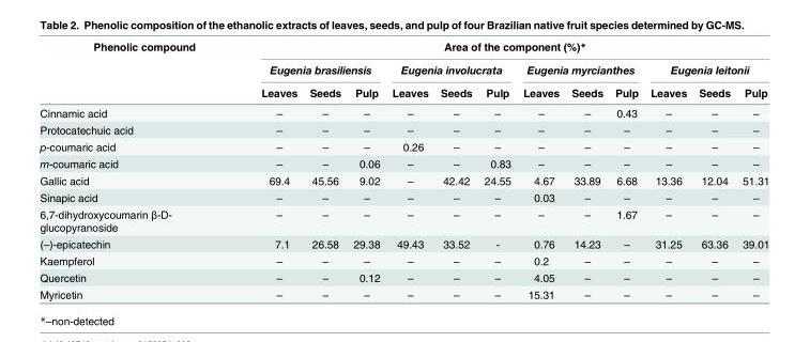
<table><thead><tr><td rowspan="3">Phenolic compound</td><td colspan="12">Area of the component (%)*</td></tr><tr><td colspan="3">Eugenia brasiliensis</td><td colspan="3">Eugenia involucrata</td><td colspan="3">Eugenia myrcianthes</td><td colspan="3">Eugenia leitonii</td></tr><tr><td>Leaves</td><td>Seeds</td><td>Pulp</td><td>Leaves</td><td>Seeds</td><td>Pulp</td><td>Leaves</td><td>Seeds</td><td>Pulp</td><td>Leaves</td><td>Seeds</td><td>Pulp</td></tr></thead><tbody><tr><td>Cinnamic acid</td><td>–</td><td>–</td><td>–</td><td>–</td><td>–</td><td>–</td><td>–</td><td>–</td><td>0.43</td><td>–</td><td>–</td><td>–</td></tr><tr><td>Protocatechuic acid</td><td>–</td><td>–</td><td>–</td><td>–</td><td>–</td><td>–</td><td>–</td><td>–</td><td>–</td><td>–</td><td>–</td><td>–</td></tr><tr><td>p-coumaric acid</td><td>–</td><td>–</td><td>–</td><td>0.26</td><td>–</td><td>–</td><td>–</td><td>–</td><td>–</td><td>–</td><td>–</td><td>–</td></tr><tr><td>m-coumaric acid</td><td>–</td><td>–</td><td>0.06</td><td>–</td><td>–</td><td>0.83</td><td>–</td><td>–</td><td>–</td><td>–</td><td>–</td><td>–</td></tr><tr><td>Gallic acid</td><td>69.4</td><td>45.56</td><td>9.02</td><td>–</td><td>42.42</td><td>24.55</td><td>4.67</td><td>33.89</td><td>6.68</td><td>13.36</td><td>12.04</td><td>51.31</td></tr><tr><td>Sinapic acid</td><td>–</td><td>–</td><td>–</td><td>–</td><td>–</td><td>–</td><td>0.03</td><td>–</td><td>–</td><td>–</td><td>–</td><td>–</td></tr><tr><td>6,7-dihydroxycoumarin β-D- glucopyranoside</td><td>–</td><td>–</td><td>–</td><td>–</td><td>–</td><td>–</td><td>–</td><td>–</td><td>1.67</td><td>–</td><td>–</td><td>–</td></tr><tr><td>(–)-epicatechin</td><td>7.1</td><td>26.58</td><td>29.38</td><td>49.43</td><td>33.52</td><td>-</td><td>0.76</td><td>14.23</td><td>–</td><td>31.25</td><td>63.36</td><td>39.01</td></tr><tr><td>Kaempferol</td><td>–</td><td>–</td><td>–</td><td>–</td><td>–</td><td>–</td><td>0.2</td><td>–</td><td>–</td><td>–</td><td>–</td><td>–</td></tr><tr><td>Quercetin</td><td>–</td><td>–</td><td>0.12</td><td>–</td><td>–</td><td>–</td><td>4.05</td><td>–</td><td>–</td><td>–</td><td>–</td><td>–</td></tr><tr><td>Myricetin</td><td>–</td><td>–</td><td>–</td><td>–</td><td>–</td><td>–</td><td>15.31</td><td>–</td><td>–</td><td>–</td><td>–</td><td>–</td></tr></tbody></table>